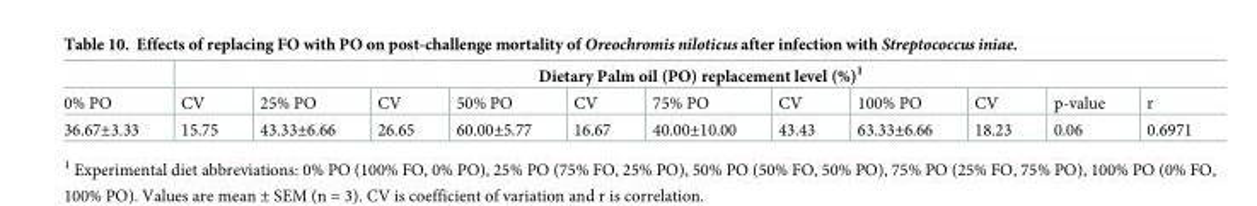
<table><thead><tr><td rowspan="2">0% PO</td><td colspan="11">Dietary Palm oil (PO) replacement level (%)<sup>1</sup></td></tr><tr><td>CV</td><td>25% PO</td><td>CV</td><td>50% PO</td><td>CV</td><td>75% PO</td><td>CV</td><td>100% PO</td><td>CV</td><td>p-value</td><td>r</td></tr></thead><tbody><tr><td>36.67±3.33</td><td>15.75</td><td>43.33±6.66</td><td>26.65</td><td>60.00±5.77</td><td>16.67</td><td>40.00±10.00</td><td>43.43</td><td>63.33±6.66</td><td>18.23</td><td>0.06</td><td>0.6971</td></tr></tbody></table>